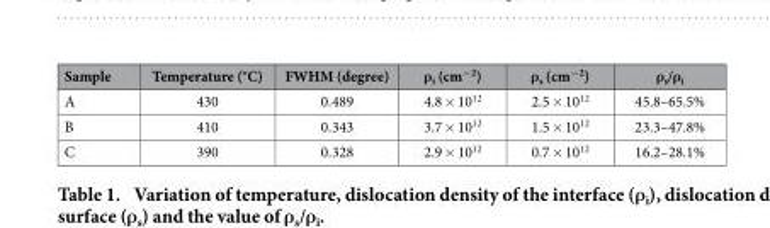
<table><thead><tr><td>Sample</td><td>Temperature (°C)</td><td>FWHM (degree)</td><td>ρ<sub>i</sub> (cm<sup>−2</sup>)</td><td>ρ<sub>s</sub> (cm<sup>−2</sup>)</td><td>ρ<sub>s</sub>/ρ<sub>i</sub></td></tr></thead><tbody><tr><td>A</td><td>430</td><td>0.489</td><td>4.8 × 10<sup>12</sup></td><td>2.5 × 10<sup>12</sup></td><td>45.8–65.5%</td></tr><tr><td>B</td><td>410</td><td>0.343</td><td>3.7 × 10<sup>12</sup></td><td>1.5 × 10<sup>12</sup></td><td>23.3–47.8%</td></tr><tr><td>C</td><td>390</td><td>0.328</td><td>2.9 × 10<sup>12</sup></td><td>0.7 × 10<sup>12</sup></td><td>16.2–28.1%</td></tr></tbody></table>